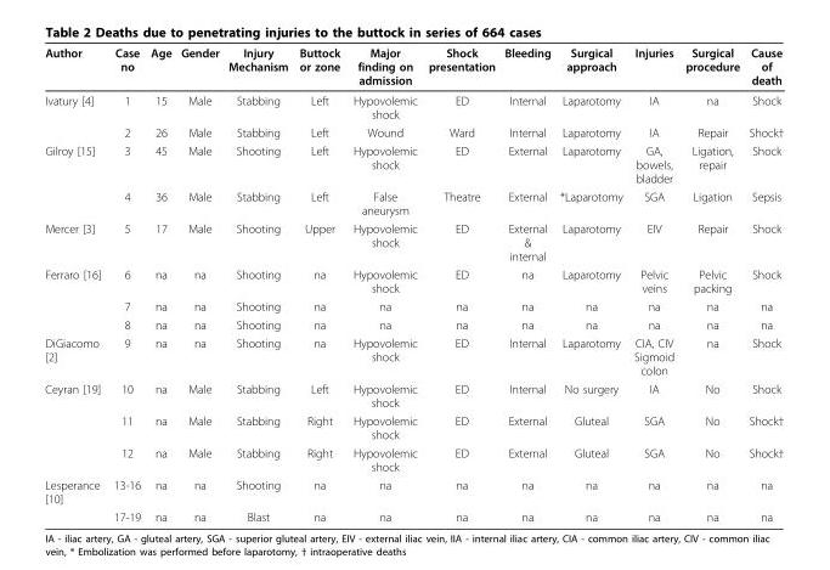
<table><thead><tr><td>Author</td><td>Case no</td><td>Age</td><td>Gender</td><td>Injury Mechanism</td><td>Buttock or zone</td><td>Major finding on admission</td><td>Shock presentation</td><td>Bleeding</td><td>Surgical approach</td><td>Injuries</td><td>Surgical procedure</td><td>Cause of death</td></tr></thead><tbody><tr><td rowspan="2">Ivatury [4]</td><td>1</td><td>15</td><td>Male</td><td>Stabbing</td><td>Left</td><td>Hypovolemic shock</td><td>ED</td><td>Internal</td><td>Laparotomy</td><td>IA</td><td>na</td><td>Shock</td></tr><tr><td>2</td><td>26</td><td>Male</td><td>Stabbing</td><td>Left</td><td>Wound</td><td>Ward</td><td>Internal</td><td>Laparotomy</td><td>IA</td><td>Repair</td><td>Shock†</td></tr><tr><td rowspan="2">Gilroy [15]</td><td>3</td><td>45</td><td>Male</td><td>Shooting</td><td>Left</td><td>Hypovolemic shock</td><td>ED</td><td>External</td><td>Laparotomy</td><td>GA, bowels, bladder</td><td>Ligation, repair</td><td>Shock</td></tr><tr><td>4</td><td>36</td><td>Male</td><td>Stabbing</td><td>Left</td><td>False aneurysm</td><td>Theatre</td><td>External</td><td>*Laparotomy</td><td>SGA</td><td>Ligation</td><td>Sepsis</td></tr><tr><td>Mercer [3]</td><td>5</td><td>17</td><td>Male</td><td>Shooting</td><td>Upper</td><td>Hypovolemic shock</td><td>ED</td><td>External &amp; internal</td><td>Laparotomy</td><td>EIV</td><td>Repair</td><td>Shock</td></tr><tr><td rowspan="3">Ferraro [16]</td><td>6</td><td>na</td><td>na</td><td>Shooting</td><td>na</td><td>Hypovolemic shock</td><td>ED</td><td>na</td><td>Laparotomy</td><td>Pelvic veins</td><td>Pelvic packing</td><td>Shock</td></tr><tr><td>7</td><td>na</td><td>na</td><td>Shooting</td><td>na</td><td>na</td><td>na</td><td>na</td><td>na</td><td>na</td><td>na</td><td>na</td></tr><tr><td>8</td><td>na</td><td>na</td><td>Shooting</td><td>na</td><td>na</td><td>na</td><td>na</td><td>na</td><td>na</td><td>na</td><td>na</td></tr><tr><td>DiGiacomo [2]</td><td>9</td><td>na</td><td>na</td><td>Shooting</td><td>na</td><td>Hypovolemic shock</td><td>ED</td><td>Internal</td><td>Laparotomy</td><td>CIA, CIV Sigmoid colon</td><td>na</td><td>Shock</td></tr><tr><td rowspan="3">Ceyran [19]</td><td>10</td><td>na</td><td>Male</td><td>Stabbing</td><td>Left</td><td>Hypovolemic shock</td><td>ED</td><td>Internal</td><td>No surgery</td><td>IA</td><td>No</td><td>Shock</td></tr><tr><td>11</td><td>na</td><td>Male</td><td>Stabbing</td><td>Right</td><td>Hypovolemic shock</td><td>ED</td><td>External</td><td>Gluteal</td><td>SGA</td><td>No</td><td>Shock†</td></tr><tr><td>12</td><td>na</td><td>Male</td><td>Stabbing</td><td>Right</td><td>Hypovolemic shock</td><td>ED</td><td>External</td><td>Gluteal</td><td>SGA</td><td>No</td><td>Shock†</td></tr><tr><td rowspan="2">Lesperance [10]</td><td>13-16</td><td>na</td><td>na</td><td>Shooting</td><td>na</td><td>na</td><td>na</td><td>na</td><td>na</td><td>na</td><td>na</td><td>na</td></tr><tr><td>17-19</td><td>na</td><td>na</td><td>Blast</td><td>na</td><td>na</td><td>na</td><td>na</td><td>na</td><td>na</td><td>na</td><td>na</td></tr></tbody></table>